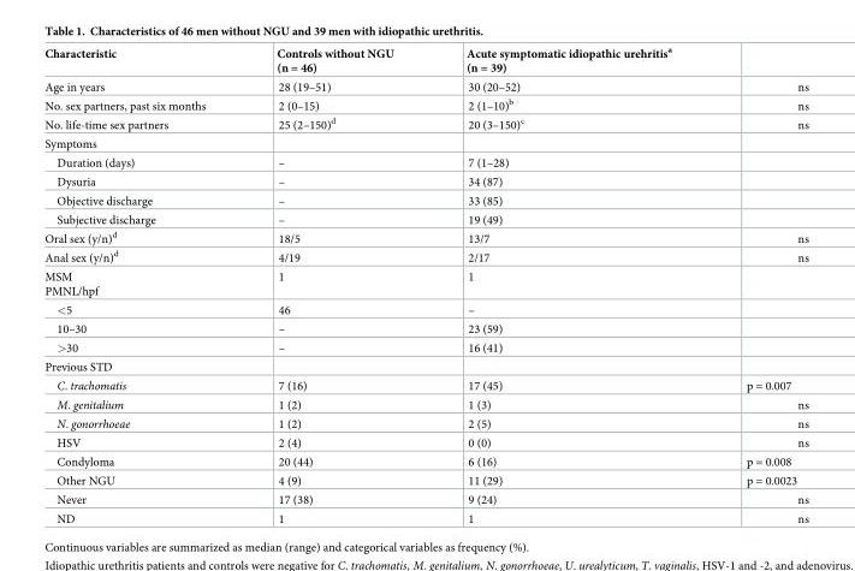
<table><thead><tr><td>Characteristic</td><td>Controls without NGU (n = 46)</td><td>Acute symptomatic idiopathic urehritis<sup>a</sup> (n = 39)</td><td></td></tr></thead><tbody><tr><td>Age in years</td><td>28 (19–51)</td><td>30 (20–52)</td><td>ns</td></tr><tr><td>No. sex partners, past six months</td><td>2 (0–15)</td><td>2 (1–10)<sup>b</sup></td><td>ns</td></tr><tr><td>No. life-time sex partners</td><td>25 (2–150)<sup>d</sup></td><td>20 (3–150)<sup>c</sup></td><td>ns</td></tr><tr><td colspan="4">Symptoms</td></tr><tr><td>Duration (days)</td><td>–</td><td>7 (1–28)</td><td></td></tr><tr><td>Dysuria</td><td>–</td><td>34 (87)</td><td></td></tr><tr><td>Objective discharge</td><td>–</td><td>33 (85)</td><td></td></tr><tr><td>Subjective discharge</td><td>–</td><td>19 (49)</td><td></td></tr><tr><td>Oral sex (y/n)<sup>d</sup></td><td>18/5</td><td>13/7</td><td>ns</td></tr><tr><td>Anal sex (y/n)<sup>d</sup></td><td>4/19</td><td>2/17</td><td>ns</td></tr><tr><td>MSM PMNL/hpf</td><td>1</td><td>1</td><td></td></tr><tr><td>&lt;5</td><td>46</td><td>–</td><td></td></tr><tr><td>10–30</td><td>–</td><td>23 (59)</td><td></td></tr><tr><td>&gt;30</td><td>–</td><td>16 (41)</td><td></td></tr><tr><td colspan="4">Previous STD</td></tr><tr><td>C. trachomatis</td><td>7 (16)</td><td>17 (45)</td><td>p = 0.007</td></tr><tr><td>M. genitalium</td><td>1 (2)</td><td>1 (3)</td><td>ns</td></tr><tr><td>N. gonorrhoeae</td><td>1 (2)</td><td>2 (5)</td><td>ns</td></tr><tr><td>HSV</td><td>2 (4)</td><td>0 (0)</td><td>ns</td></tr><tr><td>Condyloma</td><td>20 (44)</td><td>6 (16)</td><td>p = 0.008</td></tr><tr><td>Other NGU</td><td>4 (9)</td><td>11 (29)</td><td>p = 0.0023</td></tr><tr><td>Never</td><td>17 (38)</td><td>9 (24)</td><td>ns</td></tr><tr><td>ND</td><td>1</td><td>1</td><td>ns</td></tr></tbody></table>